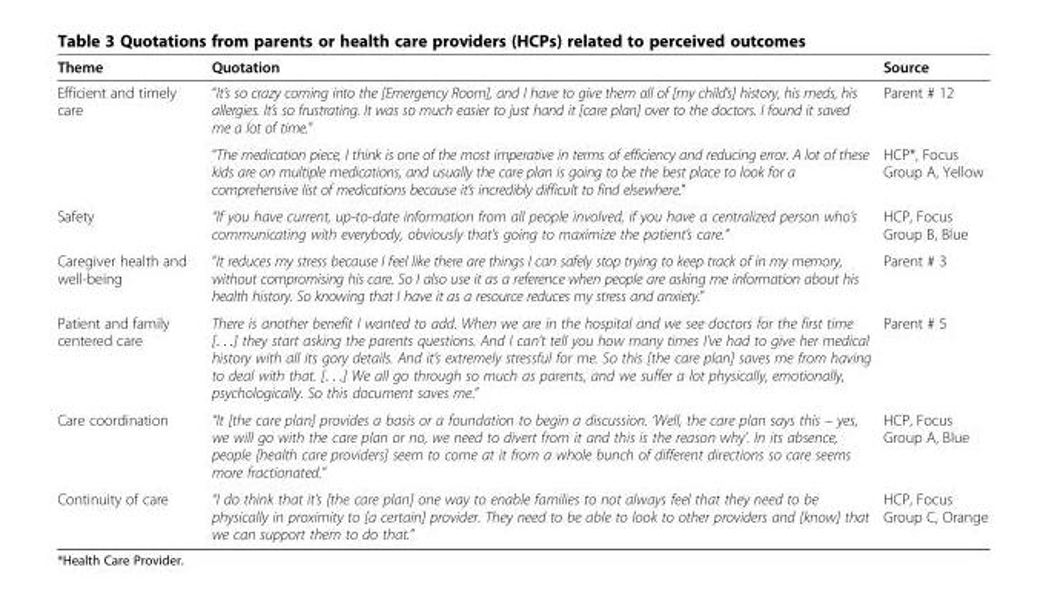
<table><thead><tr><td>Theme</td><td>Quotation</td><td>Source</td></tr></thead><tbody><tr><td rowspan="2">Efficient and timely care</td><td>“It’s so crazy coming into the [Emergency Room], and I have to give them all of [my child’s] history, his meds, his allergies. It’s so frustrating. It was so much easier to just hand it [care plan] over to the doctors. I found it saved me a lot of time.”</td><td>Parent # 12</td></tr><tr><td>“The medication piece, I think is one of the most imperative in terms of efficiency and reducing error. A lot of these kids are on multiple medications, and usually the care plan is going to be the best place to look for a comprehensive list of medications because it’s incredibly difficult to find elsewhere.”</td><td>HCP*, Focus Group A, Yellow</td></tr><tr><td>Safety</td><td>“If you have current, up-to-date information from all people involved, if you have a centralized person who’s communicating with everybody, obviously that’s going to maximize the patient’s care.”</td><td>HCP, Focus Group B, Blue</td></tr><tr><td>Caregiver health and well-being</td><td>“It reduces my stress because I feel like there are things I can safely stop trying to keep track of in my memory, without compromising his care. So I also use it as a reference when people are asking me information about his health history. So knowing that I have it as a resource reduces my stress and anxiety.”</td><td>Parent # 3</td></tr><tr><td>Patient and family centered care</td><td>There is another benefit I wanted to add. When we are in the hospital and we see doctors for the first time [. . .] they start asking the parents questions. And I can’t tell you how many times I’ve had to give her medical history with all its gory details. And it’s extremely stressful for me. So this [the care plan] saves me from having to deal with that. [. . .] We all go through so much as parents, and we suffer a lot physically, emotionally, psychologically. So this document saves me.”</td><td>Parent # 5</td></tr><tr><td>Care coordination</td><td>“It [the care plan] provides a basis or a foundation to begin a discussion. ‘Well, the care plan says this – yes, we will go with the care plan or no, we need to divert from it and this is the reason why’. In its absence, people [health care providers] seem to come at it from a whole bunch of different directions so care seems more fractionated.”</td><td>HCP, Focus Group A, Blue</td></tr><tr><td>Continuity of care</td><td>“I do think that it’s [the care plan] one way to enable families to not always feel that they need to be physically in proximity to [a certain] provider. They need to be able to look to other providers and [know] that we can support them to do that.”</td><td>HCP, Focus Group C, Orange</td></tr></tbody></table>